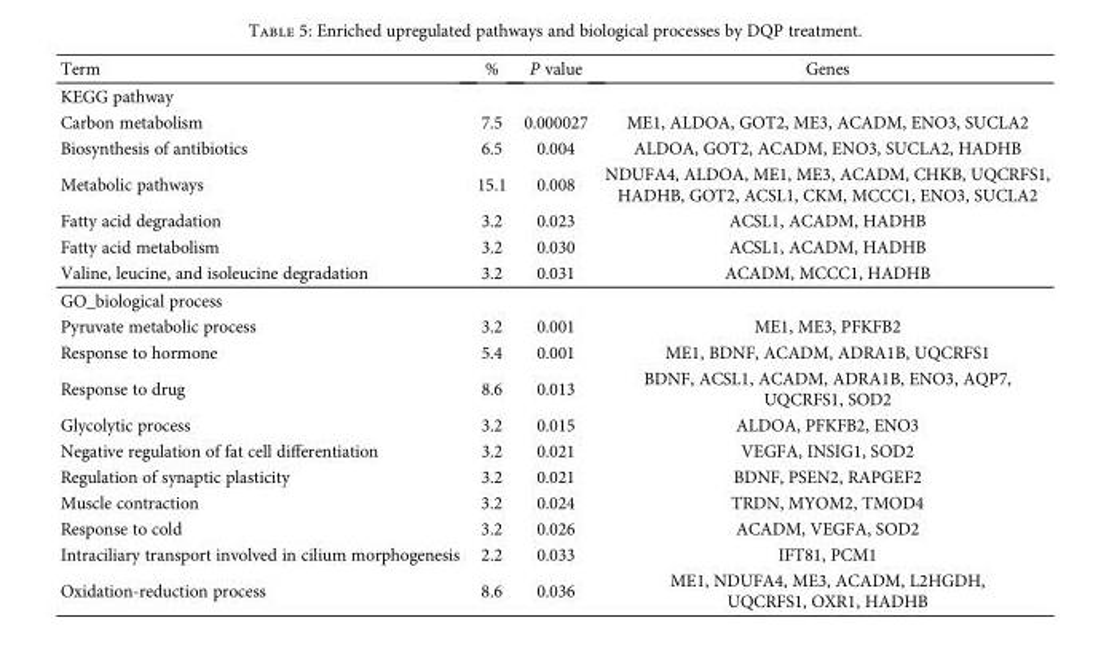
<table><thead><tr><td>Term</td><td>%</td><td>P value</td><td>Genes</td></tr></thead><tbody><tr><td colspan="4">KEGG pathway</td></tr><tr><td>Carbon metabolism</td><td>7.5</td><td>0.000027</td><td>ME1, ALDOA, GOT2, ME3, ACADM, ENO3, SUCLA2</td></tr><tr><td>Biosynthesis of antibiotics</td><td>6.5</td><td>0.004</td><td>ALDOA, GOT2, ACADM, ENO3, SUCLA2, HADHB</td></tr><tr><td>Metabolic pathways</td><td>15.1</td><td>0.008</td><td>NDUFA4, ALDOA, ME1, ME3, ACADM, CHKB, UQCRFS1, HADHB, GOT2, ACSL1, CKM, MCCC1, ENO3, SUCLA2</td></tr><tr><td>Fatty acid degradation</td><td>3.2</td><td>0.023</td><td>ACSL1, ACADM, HADHB</td></tr><tr><td>Fatty acid metabolism</td><td>3.2</td><td>0.030</td><td>ACSL1, ACADM, HADHB</td></tr><tr><td>Valine, leucine, and isoleucine degradation</td><td>3.2</td><td>0.031</td><td>ACADM, MCCC1, HADHB</td></tr><tr><td colspan="4">GO_biological process</td></tr><tr><td>Pyruvate metabolic process</td><td>3.2</td><td>0.001</td><td>ME1, ME3, PFKFB2</td></tr><tr><td>Response to hormone</td><td>5.4</td><td>0.001</td><td>ME1, BDNF, ACADM, ADRA1B, UQCRFS1</td></tr><tr><td>Response to drug</td><td>8.6</td><td>0.013</td><td>BDNF, ACSL1, ACADM, ADRA1B, ENO3, AQP7, UQCRFS1, SOD2</td></tr><tr><td>Glycolytic process</td><td>3.2</td><td>0.015</td><td>ALDOA, PFKFB2, ENO3</td></tr><tr><td>Negative regulation of fat cell differentiation</td><td>3.2</td><td>0.021</td><td>VEGFA, INSIG1, SOD2</td></tr><tr><td>Regulation of synaptic plasticity</td><td>3.2</td><td>0.021</td><td>BDNF, PSEN2, RAPGEF2</td></tr><tr><td>Muscle contraction</td><td>3.2</td><td>0.024</td><td>TRDN, MYOM2, TMOD4</td></tr><tr><td>Response to cold</td><td>3.2</td><td>0.026</td><td>ACADM, VEGFA, SOD2</td></tr><tr><td>Intraciliary transport involved in cilium morphogenesis</td><td>2.2</td><td>0.033</td><td>IFT81, PCM1</td></tr><tr><td>Oxidation-reduction process</td><td>8.6</td><td>0.036</td><td>ME1, NDUFA4, ME3, ACADM, L2HGDH, UQCRFS1, OXR1, HADHB</td></tr></tbody></table>